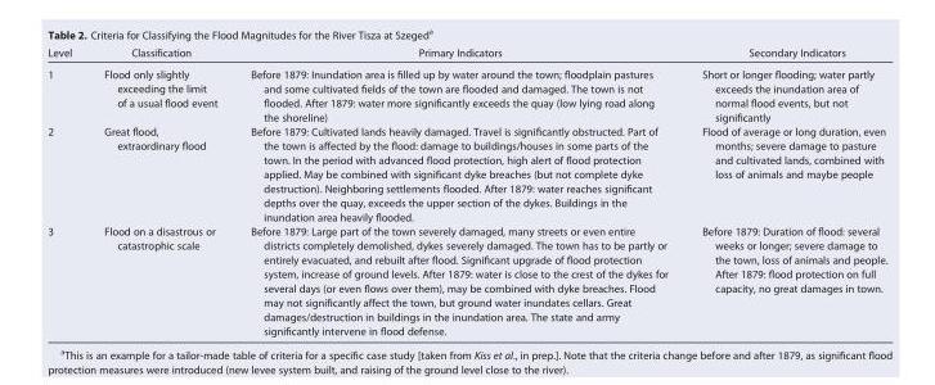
<table><thead><tr><td>Level</td><td>Classification</td><td>Primary Indicators</td><td>Secondary Indicators</td></tr></thead><tbody><tr><td>1</td><td>Flood only slightly exceeding the limit of a usual flood event</td><td>Before 1879: Inundation area is filled up by water around the town; floodplain pastures and some cultivated fields of the town are flooded and damaged. The town is not flooded. After 1879: water more significantly exceeds the quay (low lying road along the shoreline)</td><td>Short or longer flooding; water partly exceeds the inundation area of normal flood events, but not significantly</td></tr><tr><td>2</td><td>Great flood, extraordinary flood</td><td>Before 1879: Cultivated lands heavily damaged. Travel is significantly obstructed. Part of the town is affected by the flood: damage to buildings/houses in some parts of the town. In the period with advanced flood protection, high alert of flood protection applied. May be combined with significant dyke breaches (but not complete dyke destruction). Neighboring settlements flooded. After 1879: water reaches significant depths over the quay, exceeds the upper section of the dykes. Buildings in the inundation area heavily flooded.</td><td>Flood of average or long duration, even months; severe damage to pasture and cultivated lands, combined with loss of animals and maybe people</td></tr><tr><td>3</td><td>Flood on a disastrous or catastrophic scale</td><td>Before 1879: Large part of the town severely damaged, many streets or even entire districts completely demolished, dykes severely damaged. The town has to be partly or entirely evacuated, and rebuilt after flood. Significant upgrade of flood protection system, increase of ground levels. After 1879: water is close to the crest of the dykes for several days (or even flows over them), may be combined with dyke breaches. Flood may not significantly affect the town, but ground water inundates cellars. Great damages/destruction in buildings in the inundation area. The state and army significantly intervene in flood defense.</td><td>Before 1879: Duration of flood: several weeks or longer; severe damage to the town, loss of animals and people. After 1879: flood protection on full capacity, no great damages in town.</td></tr></tbody></table>